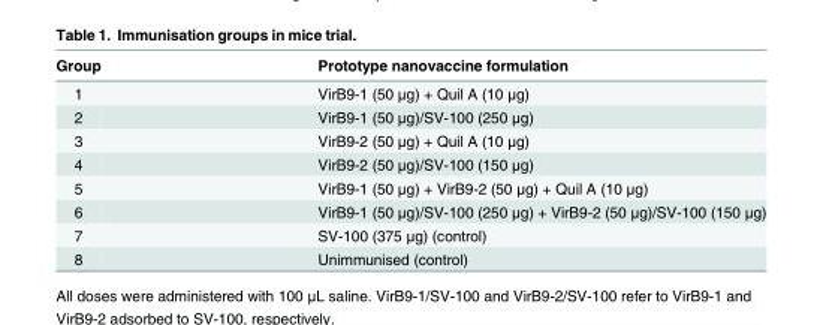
<table><thead><tr><td>Group</td><td>Prototype nanovaccine formulation</td></tr></thead><tbody><tr><td>1</td><td>VirB9-1 (50 μg) + Quil A (10 μg)</td></tr><tr><td>2</td><td>VirB9-1 (50 μg)/SV-100 (250 μg)</td></tr><tr><td>3</td><td>VirB9-2 (50 μg) + Quil A (10 μg)</td></tr><tr><td>4</td><td>VirB9-2 (50 μg)/SV-100 (150 μg)</td></tr><tr><td>5</td><td>VirB9-1 (50 μg) + VirB9-2 (50 μg) + Quil A (10 μg)</td></tr><tr><td>6</td><td>VirB9-1 (50 μg)/SV-100 (250 μg) + VirB9-2 (50 μg)/SV-100 (150 μg)</td></tr><tr><td>7</td><td>SV-100 (375 μg) (control)</td></tr><tr><td>8</td><td>Unimmunised (control)</td></tr></tbody></table>